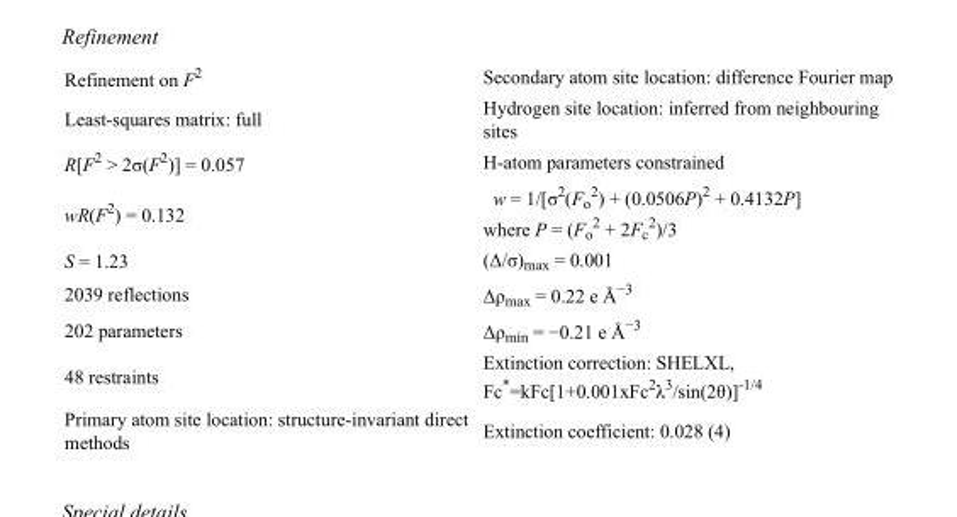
<table><tbody><tr><td>Refinement on F<sup>2</sup></td><td>Secondary atom site location: difference Fourier map</td></tr><tr><td>Least-squares matrix: full</td><td>Hydrogen site location: inferred from neighbouring sites</td></tr><tr><td>R[F<sup>2</sup> &gt; 2σ(F<sup>2</sup>)] = 0.057</td><td>H-atom parameters constrained</td></tr><tr><td>wR(F<sup>2</sup>) = 0.132</td><td>w = 1/[σ<sup>2</sup>(F<sub>o</sub> <sup>2</sup>) + (0.0506P)<sup>2</sup> + 0.4132P] where P = (F<sub>o</sub> <sup>2</sup> + 2F<sub>c</sub> <sup>2</sup>)/3</td></tr><tr><td>S = 1.23</td><td>(Δ/σ)<sub>max</sub> = 0.001</td></tr><tr><td>2039 reflections</td><td>Δρ<sub>max</sub> = 0.22 e Å<sup>−3</sup></td></tr><tr><td>202 parameters</td><td>Δρ<sub>min</sub> = −0.21 e Å<sup>−3</sup></td></tr><tr><td>48 restraints</td><td>Extinction correction: SHELXL, Fc*=kFc[1+0.001xFc<sup>2</sup>λ<sup>3</sup>/sin(2θ)]<sup>-1/4</sup></td></tr><tr><td>Primary atom site location: structure-invariant direct methods</td><td>Extinction coefficient: 0.028 (4)</td></tr></tbody></table>